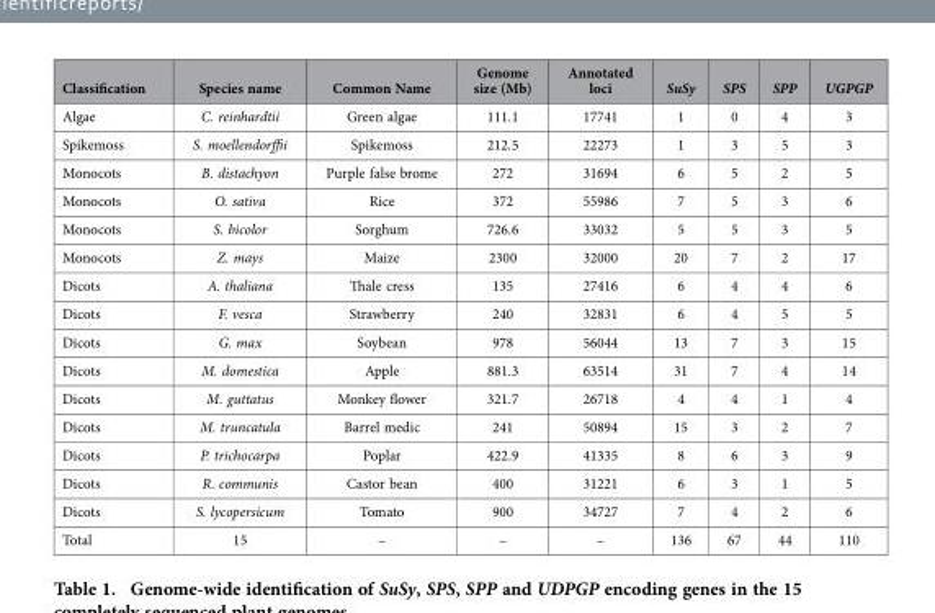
<table><thead><tr><td>Classification</td><td>Species name</td><td>Common Name</td><td>Genome size (Mb)</td><td>Annotated loci</td><td>SuSy</td><td>SPS</td><td>SPP</td><td>UGPGP</td></tr></thead><tbody><tr><td>Algae</td><td>C. reinhardtii</td><td>Green algae</td><td>111.1</td><td>17741</td><td>1</td><td>0</td><td>4</td><td>3</td></tr><tr><td>Spikemoss</td><td>S. moellendorffii</td><td>Spikemoss</td><td>212.5</td><td>22273</td><td>1</td><td>3</td><td>5</td><td>3</td></tr><tr><td>Monocots</td><td>B. distachyon</td><td>Purple false brome</td><td>272</td><td>31694</td><td>6</td><td>5</td><td>2</td><td>5</td></tr><tr><td>Monocots</td><td>O. sativa</td><td>Rice</td><td>372</td><td>55986</td><td>7</td><td>5</td><td>3</td><td>6</td></tr><tr><td>Monocots</td><td>S. bicolor</td><td>Sorghum</td><td>726.6</td><td>33032</td><td>5</td><td>5</td><td>3</td><td>5</td></tr><tr><td>Monocots</td><td>Z. mays</td><td>Maize</td><td>2300</td><td>32000</td><td>20</td><td>7</td><td>2</td><td>17</td></tr><tr><td>Dicots</td><td>A. thaliana</td><td>Thale cress</td><td>135</td><td>27416</td><td>6</td><td>4</td><td>4</td><td>6</td></tr><tr><td>Dicots</td><td>F. vesca</td><td>Strawberry</td><td>240</td><td>32831</td><td>6</td><td>4</td><td>5</td><td>5</td></tr><tr><td>Dicots</td><td>G. max</td><td>Soybean</td><td>978</td><td>56044</td><td>13</td><td>7</td><td>3</td><td>15</td></tr><tr><td>Dicots</td><td>M. domestica</td><td>Apple</td><td>881.3</td><td>63514</td><td>31</td><td>7</td><td>4</td><td>14</td></tr><tr><td>Dicots</td><td>M. guttatus</td><td>Monkey flower</td><td>321.7</td><td>26718</td><td>4</td><td>4</td><td>1</td><td>4</td></tr><tr><td>Dicots</td><td>M. truncatula</td><td>Barrel medic</td><td>241</td><td>50894</td><td>15</td><td>3</td><td>2</td><td>7</td></tr><tr><td>Dicots</td><td>P. trichocarpa</td><td>Poplar</td><td>422.9</td><td>41335</td><td>8</td><td>6</td><td>3</td><td>9</td></tr><tr><td>Dicots</td><td>R. communis</td><td>Castor bean</td><td>400</td><td>31221</td><td>6</td><td>3</td><td>1</td><td>5</td></tr><tr><td>Dicots</td><td>S. lycopersicum</td><td>Tomato</td><td>900</td><td>34727</td><td>7</td><td>4</td><td>2</td><td>6</td></tr><tr><td>Total</td><td>15</td><td>–</td><td>–</td><td>–</td><td>136</td><td>67</td><td>44</td><td>110</td></tr></tbody></table>